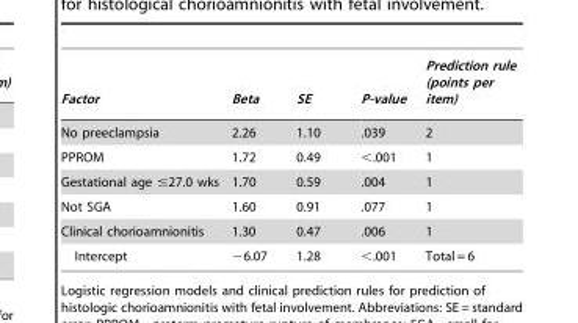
<table><thead><tr><td>Factor</td><td>Beta</td><td>SE</td><td>P-value</td><td>Prediction rule (points per item)</td></tr></thead><tbody><tr><td>No preeclampsia</td><td>2.26</td><td>1.10</td><td>.039</td><td>2</td></tr><tr><td>PPROM</td><td>1.72</td><td>0.49</td><td>&lt;.001</td><td>1</td></tr><tr><td>Gestational age ≤27.0 wks</td><td>1.70</td><td>0.59</td><td>.004</td><td>1</td></tr><tr><td>Not SGA</td><td>1.60</td><td>0.91</td><td>.077</td><td>1</td></tr><tr><td>Clinical chorioamnionitis</td><td>1.30</td><td>0.47</td><td>.006</td><td>1</td></tr><tr><td>Intercept</td><td>−6.07</td><td>1.28</td><td>&lt;.001</td><td>Total = 6</td></tr></tbody></table>